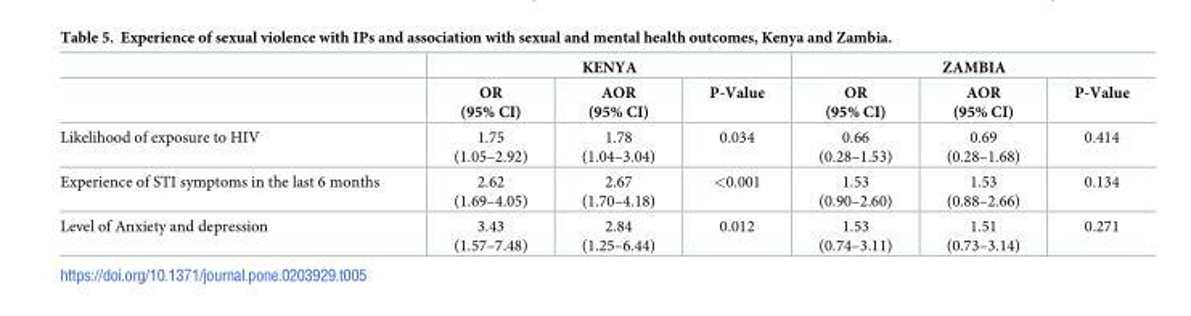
<table><thead><tr><td rowspan="2"></td><td colspan="3">KENYA</td><td colspan="3">ZAMBIA</td></tr><tr><td>OR (95% CI)</td><td>AOR (95% CI)</td><td>P-Value</td><td>OR (95% CI)</td><td>AOR (95% CI)</td><td>P-Value</td></tr></thead><tbody><tr><td>Likelihood of exposure to HIV</td><td>1.75 (1.05–2.92)</td><td>1.78 (1.04–3.04)</td><td>0.034</td><td>0.66 (0.28–1.53)</td><td>0.69 (0.28–1.68)</td><td>0.414</td></tr><tr><td>Experience of STI symptoms in the last 6 months</td><td>2.62 (1.69–4.05)</td><td>2.67 (1.70–4.18)</td><td>&lt;0.001</td><td>1.53 (0.90–2.60)</td><td>1.53 (0.88–2.66)</td><td>0.134</td></tr><tr><td>Level of Anxiety and depression</td><td>3.43 (1.57–7.48)</td><td>2.84 (1.25–6.44)</td><td>0.012</td><td>1.53 (0.74–3.11)</td><td>1.51 (0.73–3.14)</td><td>0.271</td></tr></tbody></table>